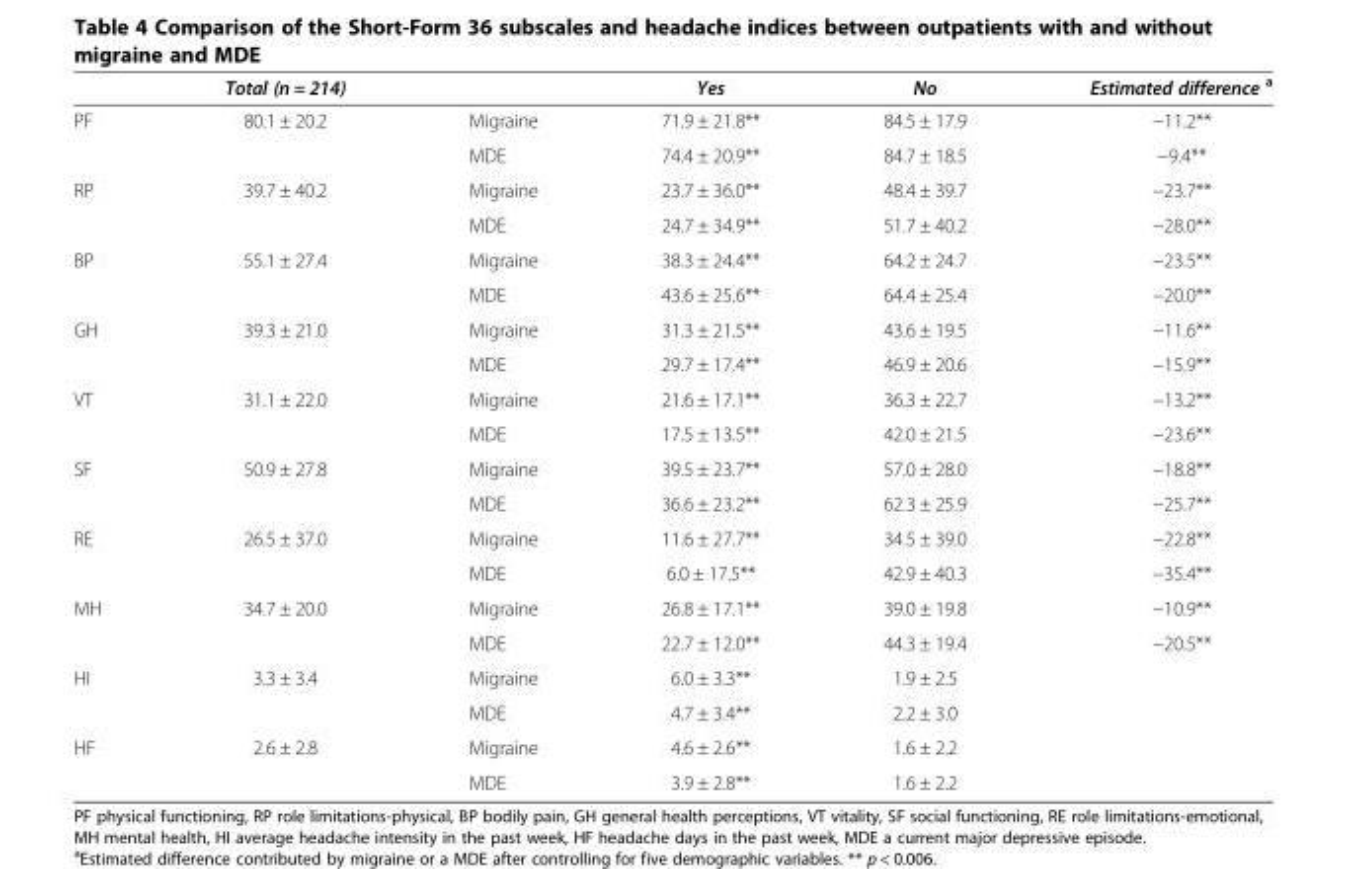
<table><thead><tr><td></td><td>Total (n = 214)</td><td></td><td>Yes</td><td>No</td><td>Estimated difference <sup>a</sup></td></tr></thead><tbody><tr><td rowspan="2">PF</td><td>80.1 ± 20.2</td><td>Migraine</td><td>71.9 ± 21.8**</td><td>84.5 ± 17.9</td><td>−11.2**</td></tr><tr><td></td><td>MDE</td><td>74.4 ± 20.9**</td><td>84.7 ± 18.5</td><td>−9.4**</td></tr><tr><td rowspan="2">RP</td><td>39.7 ± 40.2</td><td>Migraine</td><td>23.7 ± 36.0**</td><td>48.4 ± 39.7</td><td>−23.7**</td></tr><tr><td></td><td>MDE</td><td>24.7 ± 34.9**</td><td>51.7 ± 40.2</td><td>−28.0**</td></tr><tr><td rowspan="2">BP</td><td>55.1 ± 27.4</td><td>Migraine</td><td>38.3 ± 24.4**</td><td>64.2 ± 24.7</td><td>−23.5**</td></tr><tr><td></td><td>MDE</td><td>43.6 ± 25.6**</td><td>64.4 ± 25.4</td><td>−20.0**</td></tr><tr><td rowspan="2">GH</td><td>39.3 ± 21.0</td><td>Migraine</td><td>31.3 ± 21.5**</td><td>43.6 ± 19.5</td><td>−11.6**</td></tr><tr><td></td><td>MDE</td><td>29.7 ± 17.4**</td><td>46.9 ± 20.6</td><td>−15.9**</td></tr><tr><td rowspan="2">VT</td><td>31.1 ± 22.0</td><td>Migraine</td><td>21.6 ± 17.1**</td><td>36.3 ± 22.7</td><td>−13.2**</td></tr><tr><td></td><td>MDE</td><td>17.5 ± 13.5**</td><td>42.0 ± 21.5</td><td>−23.6**</td></tr><tr><td rowspan="2">SF</td><td>50.9 ± 27.8</td><td>Migraine</td><td>39.5 ± 23.7**</td><td>57.0 ± 28.0</td><td>−18.8**</td></tr><tr><td></td><td>MDE</td><td>36.6 ± 23.2**</td><td>62.3 ± 25.9</td><td>−25.7**</td></tr><tr><td rowspan="2">RE</td><td>26.5 ± 37.0</td><td>Migraine</td><td>11.6 ± 27.7**</td><td>34.5 ± 39.0</td><td>−22.8**</td></tr><tr><td></td><td>MDE</td><td>6.0 ± 17.5**</td><td>42.9 ± 40.3</td><td>−35.4**</td></tr><tr><td rowspan="2">MH</td><td>34.7 ± 20.0</td><td>Migraine</td><td>26.8 ± 17.1**</td><td>39.0 ± 19.8</td><td>−10.9**</td></tr><tr><td></td><td>MDE</td><td>22.7 ± 12.0**</td><td>44.3 ± 19.4</td><td>−20.5**</td></tr><tr><td rowspan="2">HI</td><td>3.3 ± 3.4</td><td>Migraine</td><td>6.0 ± 3.3**</td><td>1.9 ± 2.5</td><td></td></tr><tr><td></td><td>MDE</td><td>4.7 ± 3.4**</td><td>2.2 ± 3.0</td><td></td></tr><tr><td rowspan="2">HF</td><td>2.6 ± 2.8</td><td>Migraine</td><td>4.6 ± 2.6**</td><td>1.6 ± 2.2</td><td></td></tr><tr><td></td><td>MDE</td><td>3.9 ± 2.8**</td><td>1.6 ± 2.2</td><td></td></tr></tbody></table>